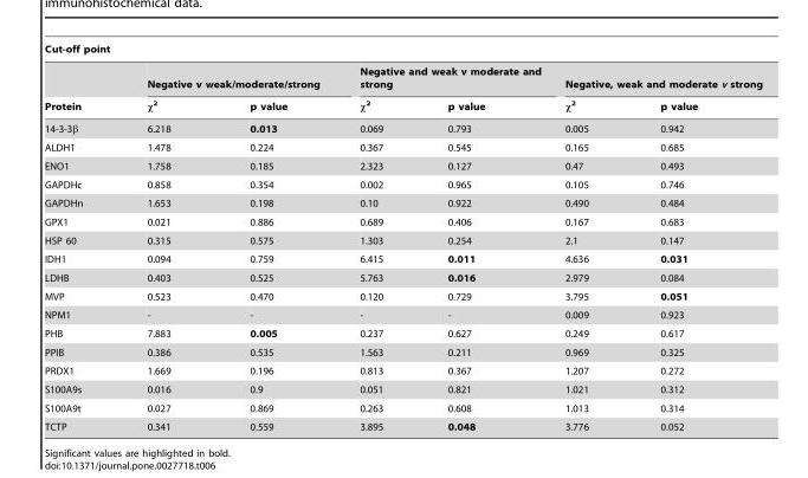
<table><thead><tr><td colspan="7">Cut-off point</td></tr><tr><td rowspan="2">Protein</td><td colspan="2">Negative v weak/moderate/strong</td><td colspan="2">Negative and weak v moderate and strong</td><td colspan="2">Negative, weak and moderate v strong</td></tr><tr><td>χ<sup>2</sup></td><td>p value</td><td>χ<sup>2</sup></td><td>p value</td><td>χ<sup>2</sup></td><td>p value</td></tr></thead><tbody><tr><td>14-3-3β</td><td>6.218</td><td>0.013</td><td>0.069</td><td>0.793</td><td>0.005</td><td>0.942</td></tr><tr><td>ALDH1</td><td>1.478</td><td>0.224</td><td>0.367</td><td>0.545</td><td>0.165</td><td>0.685</td></tr><tr><td>ENO1</td><td>1.758</td><td>0.185</td><td>2.323</td><td>0.127</td><td>0.47</td><td>0.493</td></tr><tr><td>GAPDHc</td><td>0.858</td><td>0.354</td><td>0.002</td><td>0.965</td><td>0.105</td><td>0.746</td></tr><tr><td>GAPDHn</td><td>1.653</td><td>0.198</td><td>0.10</td><td>0.922</td><td>0.490</td><td>0.484</td></tr><tr><td>GPX1</td><td>0.021</td><td>0.886</td><td>0.689</td><td>0.406</td><td>0.167</td><td>0.683</td></tr><tr><td>HSP 60</td><td>0.315</td><td>0.575</td><td>1.303</td><td>0.254</td><td>2.1</td><td>0.147</td></tr><tr><td>IDH1</td><td>0.094</td><td>0.759</td><td>6.415</td><td>0.011</td><td>4.636</td><td>0.031</td></tr><tr><td>LDHB</td><td>0.403</td><td>0.525</td><td>5.763</td><td>0.016</td><td>2.979</td><td>0.084</td></tr><tr><td>MVP</td><td>0.523</td><td>0.470</td><td>0.120</td><td>0.729</td><td>3.795</td><td>0.051</td></tr><tr><td>NPM1</td><td>-</td><td>-</td><td>-</td><td>-</td><td>0.009</td><td>0.923</td></tr><tr><td>PHB</td><td>7.883</td><td>0.005</td><td>0.237</td><td>0.627</td><td>0.249</td><td>0.617</td></tr><tr><td>PPIB</td><td>0.386</td><td>0.535</td><td>1.563</td><td>0.211</td><td>0.969</td><td>0.325</td></tr><tr><td>PRDX1</td><td>1.669</td><td>0.196</td><td>0.813</td><td>0.367</td><td>1.207</td><td>0.272</td></tr><tr><td>S100A9s</td><td>0.016</td><td>0.9</td><td>0.051</td><td>0.821</td><td>1.021</td><td>0.312</td></tr><tr><td>S100A9t</td><td>0.027</td><td>0.869</td><td>0.263</td><td>0.608</td><td>1.013</td><td>0.314</td></tr><tr><td>TCTP</td><td>0.341</td><td>0.559</td><td>3.895</td><td>0.048</td><td>3.776</td><td>0.052</td></tr></tbody></table>